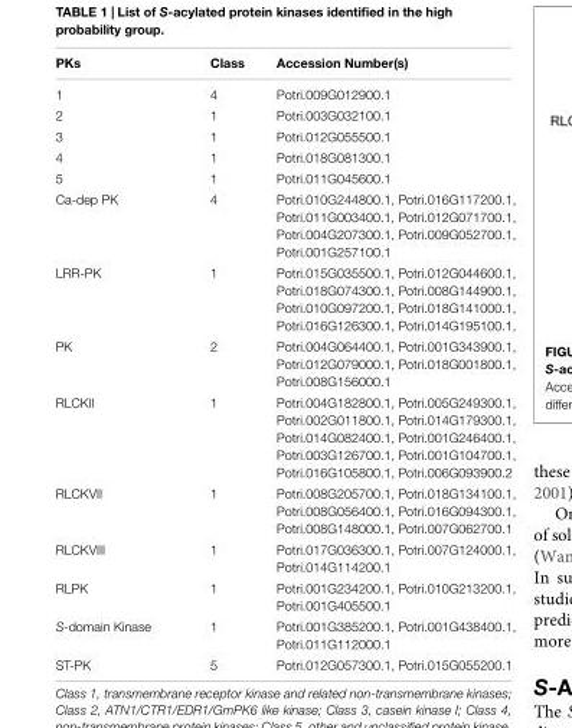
<table><thead><tr><td>PKs</td><td>Class</td><td>Accession Number(s)</td></tr></thead><tbody><tr><td>1</td><td>4</td><td>Potri.009G012900.1</td></tr><tr><td>2</td><td>1</td><td>Potri.003G032100.1</td></tr><tr><td>3</td><td>1</td><td>Potri.012G055500.1</td></tr><tr><td>4</td><td>1</td><td>Potri.018G081300.1</td></tr><tr><td>5</td><td>1</td><td>Potri.011G045600.1</td></tr><tr><td>Ca-dep PK</td><td>4</td><td>Potri.010G244800.1, Potri.016G117200.1, Potri.011G003400.1, Potri.012G071700.1, Potri.004G207300.1, Potri.009G052700.1, Potri.001G257100.1</td></tr><tr><td>LRR-PK</td><td>1</td><td>Potri.015G035500.1, Potri.012G044600.1, Potri.018G074300.1, Potri.008G144900.1, Potri.010G097200.1, Potri.018G141000.1, Potri.016G126300.1, Potri.014G195100.1,</td></tr><tr><td>PK</td><td>2</td><td>Potri.004G064400.1, Potri.001G343900.1, Potri.012G079000.1, Potri.018G001800.1, Potri.008G156000.1</td></tr><tr><td>RLCKII</td><td>1</td><td>Potri.004G182800.1, Potri.005G249300.1, Potri.002G011800.1, Potri.014G179300.1, Potri.014G082400.1, Potri.001G246400.1, Potri.003G126700.1, Potri.001G104700.1, Potri.016G105800.1, Potri.006G093900.2</td></tr><tr><td>RLCKVII</td><td>1</td><td>Potri.008G205700.1, Potri.018G134100.1, Potri.008G056400.1, Potri.016G094300.1, Potri.008G148000.1, Potri.007G062700.1</td></tr><tr><td>RLCKVIII</td><td>1</td><td>Potri.017G036300.1, Potri.007G124000.1, Potri.014G114200.1</td></tr><tr><td>RLPK</td><td>1</td><td>Potri.001G234200.1, Potri.010G213200.1, Potri.001G405500.1</td></tr><tr><td>S-domain Kinase</td><td>1</td><td>Potri.001G385200.1, Potri.001G438400.1, Potri.011G112000.1</td></tr><tr><td>ST-PK</td><td>5</td><td>Potri.012G057300.1, Potri.015G055200.1</td></tr></tbody></table>